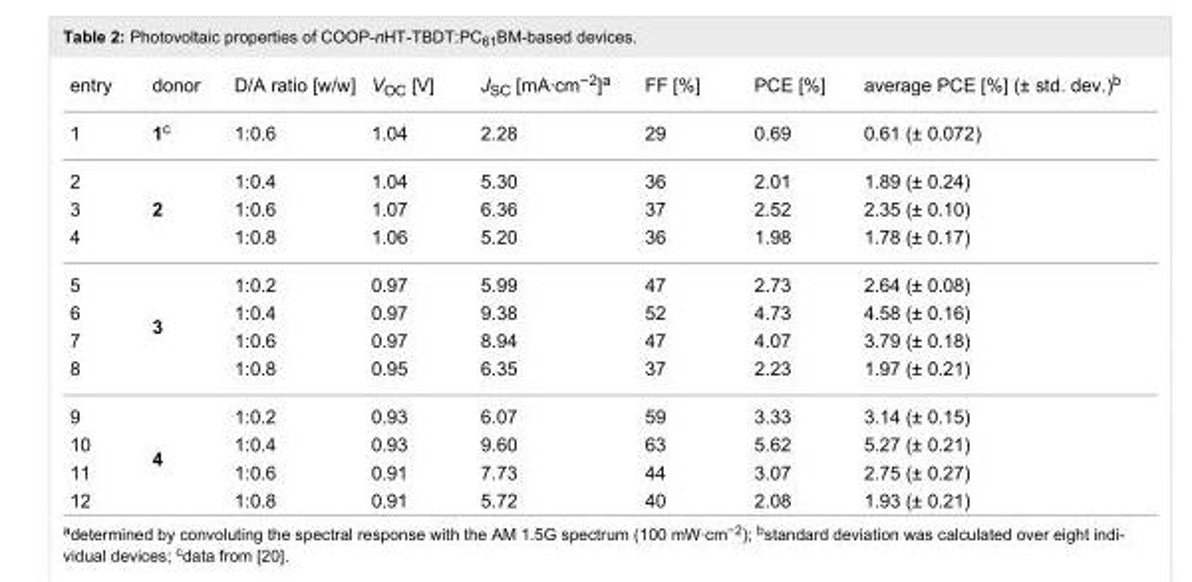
<table><tbody><tr><td>entry</td><td>donor</td><td>D/A ratio [w/w]</td><td>V<sub>OC</sub> [V]</td><td>J<sub>SC</sub> [mA·cm<sup>−2</sup>]<sup>a</sup></td><td>FF [%]</td><td>PCE [%]</td><td>average PCE [%] (± std. dev.)<sup>b</sup></td></tr><tr><td>1</td><td>1<sup>c</sup></td><td>1:0.6</td><td>1.04</td><td>2.28</td><td>29</td><td>0.69</td><td>0.61 (± 0.072)</td></tr><tr><td>2</td><td rowspan="3">2</td><td>1:0.4</td><td>1.04</td><td>5.30</td><td>36</td><td>2.01</td><td>1.89 (± 0.24)</td></tr><tr><td>3</td><td>1:0.6</td><td>1.07</td><td>6.36</td><td>37</td><td>2.52</td><td>2.35 (± 0.10)</td></tr><tr><td>4</td><td>1:0.8</td><td>1.06</td><td>5.20</td><td>36</td><td>1.98</td><td>1.78 (± 0.17)</td></tr><tr><td>5</td><td rowspan="4">3</td><td>1:0.2</td><td>0.97</td><td>5.99</td><td>47</td><td>2.73</td><td>2.64 (± 0.08)</td></tr><tr><td>6</td><td>1:0.4</td><td>0.97</td><td>9.38</td><td>52</td><td>4.73</td><td>4.58 (± 0.16)</td></tr><tr><td>7</td><td>1:0.6</td><td>0.97</td><td>8.94</td><td>47</td><td>4.07</td><td>3.79 (± 0.18)</td></tr><tr><td>8</td><td>1:0.8</td><td>0.95</td><td>6.35</td><td>37</td><td>2.23</td><td>1.97 (± 0.21)</td></tr><tr><td>9</td><td rowspan="4">4</td><td>1:0.2</td><td>0.93</td><td>6.07</td><td>59</td><td>3.33</td><td>3.14 (± 0.15)</td></tr><tr><td>10</td><td>1:0.4</td><td>0.93</td><td>9.60</td><td>63</td><td>5.62</td><td>5.27 (± 0.21)</td></tr><tr><td>11</td><td>1:0.6</td><td>0.91</td><td>7.73</td><td>44</td><td>3.07</td><td>2.75 (± 0.27)</td></tr><tr><td>12</td><td>1:0.8</td><td>0.91</td><td>5.72</td><td>40</td><td>2.08</td><td>1.93 (± 0.21)</td></tr></tbody></table>